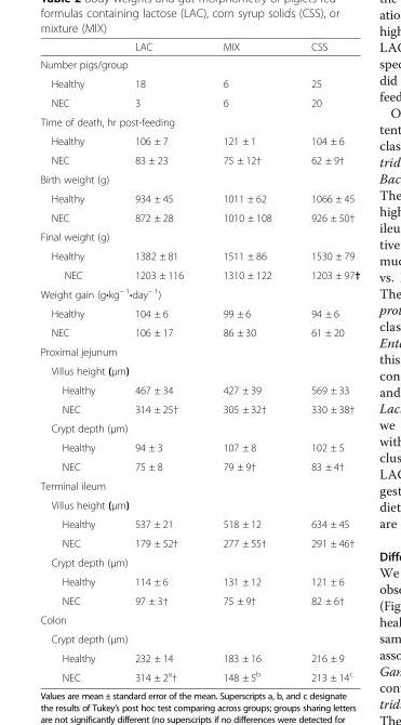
<table><thead><tr><td></td><td>LAC</td><td>MIX</td><td>CSS</td></tr></thead><tbody><tr><td colspan="4">Number pigs/group</td></tr><tr><td>Healthy</td><td>18</td><td>6</td><td>25</td></tr><tr><td>NEC</td><td>3</td><td>6</td><td>20</td></tr><tr><td colspan="4">Time of death, hr post-feeding</td></tr><tr><td>Healthy</td><td>106 ± 7</td><td>121 ± 1</td><td>104 ± 6</td></tr><tr><td>NEC</td><td>83 ± 23</td><td>75 ± 12†</td><td>62 ± 9†</td></tr><tr><td colspan="4">Birth weight (g)</td></tr><tr><td>Healthy</td><td>934 ± 45</td><td>1011 ± 62</td><td>1066 ± 45</td></tr><tr><td>NEC</td><td>872 ± 28</td><td>1010 ± 108</td><td>926 ± 50†</td></tr><tr><td colspan="4">Final weight (g)</td></tr><tr><td>Healthy</td><td>1382 ± 81</td><td>1511 ± 86</td><td>1530 ± 79</td></tr><tr><td>NEC</td><td>1203 ± 116</td><td>1310 ± 122</td><td>1203 ± 97†</td></tr><tr><td colspan="4">Weight gain (g•kg<sup>− 1</sup>•day<sup>− 1</sup>)</td></tr><tr><td>Healthy</td><td>104 ± 6</td><td>99 ± 6</td><td>94 ± 6</td></tr><tr><td>NEC</td><td>106 ± 17</td><td>86 ± 30</td><td>61 ± 20</td></tr><tr><td colspan="4">Proximal jejunum</td></tr><tr><td colspan="4">Villus height (μm)</td></tr><tr><td>Healthy</td><td>467 ± 34</td><td>427 ± 39</td><td>569 ± 33</td></tr><tr><td>NEC</td><td>314 ± 25†</td><td>305 ± 32†</td><td>330 ± 38†</td></tr><tr><td colspan="4">Crypt depth (μm)</td></tr><tr><td>Healthy</td><td>94 ± 3</td><td>107 ± 8</td><td>102 ± 5</td></tr><tr><td>NEC</td><td>75 ± 8</td><td>79 ± 9†</td><td>83 ± 4†</td></tr><tr><td colspan="4">Terminal ileum</td></tr><tr><td colspan="4">Villus height (μm)</td></tr><tr><td>Healthy</td><td>537 ± 21</td><td>518 ± 12</td><td>634 ± 45</td></tr><tr><td>NEC</td><td>179 ± 52†</td><td>277 ± 55†</td><td>291 ± 46†</td></tr><tr><td colspan="4">Crypt depth (μm)</td></tr><tr><td>Healthy</td><td>114 ± 6</td><td>131 ± 12</td><td>121 ± 6</td></tr><tr><td>NEC</td><td>97 ± 3†</td><td>75 ± 9†</td><td>82 ± 6†</td></tr><tr><td colspan="4">Colon</td></tr><tr><td colspan="4">Crypt depth (μm)</td></tr><tr><td>Healthy</td><td>232 ± 14</td><td>183 ± 16</td><td>216 ± 9</td></tr><tr><td>NEC</td><td>314 ± 2<sup>a</sup>†</td><td>148 ± 5<sup>b</sup></td><td>213 ± 14<sup>c</sup></td></tr></tbody></table>